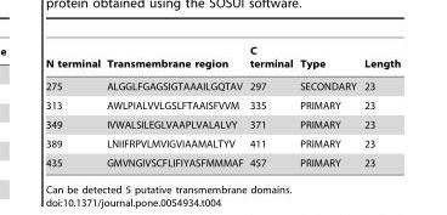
<table><thead><tr><td>N terminal</td><td>Transmembrane region</td><td>C terminal</td><td>Type</td><td>Length</td></tr></thead><tbody><tr><td>275</td><td>ALGGLFGAGSIGTAAAILGQTAV</td><td>297</td><td>SECONDARY</td><td>23</td></tr><tr><td>313</td><td>AWLPIALVVLGSLFTAAISFVVM</td><td>335</td><td>PRIMARY</td><td>23</td></tr><tr><td>349</td><td>IVWALSILEGLVAAPLVALALVY</td><td>371</td><td>PRIMARY</td><td>23</td></tr><tr><td>389</td><td>LNIIFRPVLMVIGVIAAMALTYV</td><td>411</td><td>PRIMARY</td><td>23</td></tr><tr><td>435</td><td>GMVNGIVSCFLIFIYASFMMMAF</td><td>457</td><td>PRIMARY</td><td>23</td></tr></tbody></table>